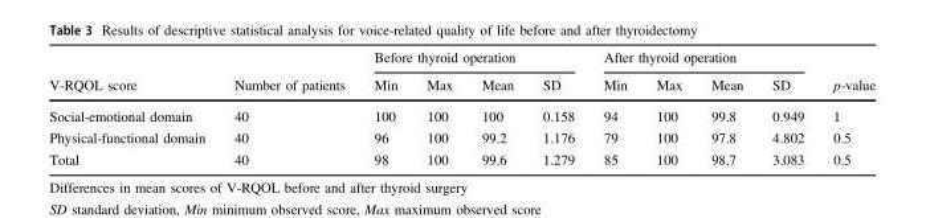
<table><thead><tr><td rowspan="2">V-RQOL score</td><td rowspan="2">Number of patients</td><td colspan="4">Before thyroid operation</td><td colspan="4">After thyroid operation</td><td rowspan="2">p-value</td></tr><tr><td>Min</td><td>Max</td><td>Mean</td><td>SD</td><td>Min</td><td>Max</td><td>Mean</td><td>SD</td></tr></thead><tbody><tr><td>Social-emotional domain</td><td>40</td><td>100</td><td>100</td><td>100</td><td>0.158</td><td>94</td><td>100</td><td>99.8</td><td>0.949</td><td>1</td></tr><tr><td>Physical-functional domain</td><td>40</td><td>96</td><td>100</td><td>99.2</td><td>1.176</td><td>79</td><td>100</td><td>97.8</td><td>4.802</td><td>0.5</td></tr><tr><td>Total</td><td>40</td><td>98</td><td>100</td><td>99.6</td><td>1.279</td><td>85</td><td>100</td><td>98.7</td><td>3.083</td><td>0.5</td></tr></tbody></table>